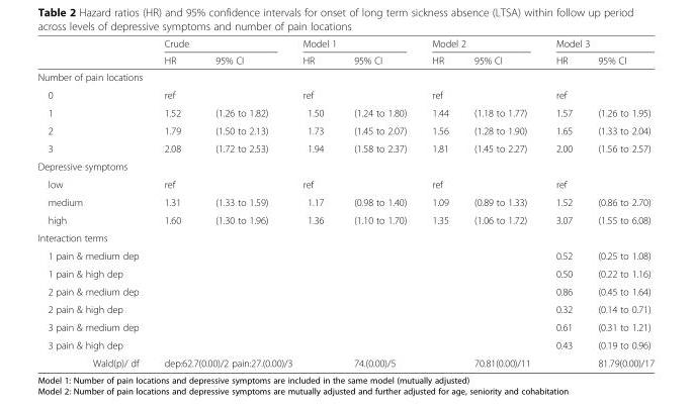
<table><thead><tr><td rowspan="2"></td><td colspan="2">Crude</td><td colspan="2">Model 1</td><td colspan="2">Model 2</td><td colspan="2">Model 3</td></tr><tr><td>HR</td><td>95% CI</td><td>HR</td><td>95% CI</td><td>HR</td><td>95% CI</td><td>HR</td><td>95% CI</td></tr></thead><tbody><tr><td colspan="9">Number of pain locations</td></tr><tr><td>0</td><td>ref</td><td></td><td>ref</td><td></td><td>ref</td><td></td><td>ref</td><td></td></tr><tr><td>1</td><td>1.52</td><td>(1.26 to 1.82)</td><td>1.50</td><td>(1.24 to 1.80)</td><td>1.44</td><td>(1.18 to 1.77)</td><td>1.57</td><td>(1.26 to 1.95)</td></tr><tr><td>2</td><td>1.79</td><td>(1.50 to 2.13)</td><td>1.73</td><td>(1.45 to 2.07)</td><td>1.56</td><td>(1.28 to 1.90)</td><td>1.65</td><td>(1.33 to 2.04)</td></tr><tr><td>3</td><td>2.08</td><td>(1.72 to 2.53)</td><td>1.94</td><td>(1.58 to 2.37)</td><td>1.81</td><td>(1.45 to 2.27)</td><td>2.00</td><td>(1.56 to 2.57)</td></tr><tr><td colspan="9">Depressive symptoms</td></tr><tr><td>low</td><td>ref</td><td></td><td>ref</td><td></td><td>ref</td><td></td><td>ref</td><td></td></tr><tr><td>medium</td><td>1.31</td><td>(1.33 to 1.59)</td><td>1.17</td><td>(0.98 to 1.40)</td><td>1.09</td><td>(0.89 to 1.33)</td><td>1.52</td><td>(0.86 to 2.70)</td></tr><tr><td>high</td><td>1.60</td><td>(1.30 to 1.96)</td><td>1.36</td><td>(1.10 to 1.70)</td><td>1.35</td><td>(1.06 to 1.72)</td><td>3.07</td><td>(1.55 to 6.08)</td></tr><tr><td colspan="9">Interaction terms</td></tr><tr><td>1 pain &amp; medium dep</td><td></td><td></td><td></td><td></td><td></td><td></td><td>0.52</td><td>(0.25 to 1.08)</td></tr><tr><td>1 pain &amp; high dep</td><td></td><td></td><td></td><td></td><td></td><td></td><td>0.50</td><td>(0.22 to 1.16)</td></tr><tr><td>2 pain &amp; medium dep</td><td></td><td></td><td></td><td></td><td></td><td></td><td>0.86</td><td>(0.45 to 1.64)</td></tr><tr><td>2 pain &amp; high dep</td><td></td><td></td><td></td><td></td><td></td><td></td><td>0.32</td><td>(0.14 to 0.71)</td></tr><tr><td>3 pain &amp; medium dep</td><td></td><td></td><td></td><td></td><td></td><td></td><td>0.61</td><td>(0.31 to 1.21)</td></tr><tr><td>3 pain &amp; high dep</td><td></td><td></td><td></td><td></td><td></td><td></td><td>0.43</td><td>(0.19 to 0.96)</td></tr><tr><td>Wald(p)/ df</td><td colspan="3">dep:62.7(0.00)/2 pain:27.(0.00)/3</td><td>74.(0.00)/5</td><td></td><td>70.81(0.00)/11</td><td></td><td>81.79(0.00)/17</td></tr></tbody></table>